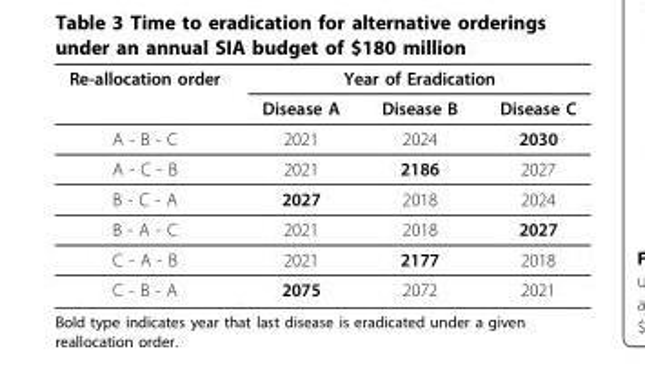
<table><thead><tr><td rowspan="2">Re-allocation order</td><td colspan="3">Year of Eradication</td></tr><tr><td>Disease A</td><td>Disease B</td><td>Disease C</td></tr></thead><tbody><tr><td>A - B - C</td><td>2021</td><td>2024</td><td>2030</td></tr><tr><td>A - C - B</td><td>2021</td><td>2186</td><td>2027</td></tr><tr><td>B - C - A</td><td>2027</td><td>2018</td><td>2024</td></tr><tr><td>B - A - C</td><td>2021</td><td>2018</td><td>2027</td></tr><tr><td>C - A - B</td><td>2021</td><td>2177</td><td>2018</td></tr><tr><td>C - B - A</td><td>2075</td><td>2072</td><td>2021</td></tr></tbody></table>